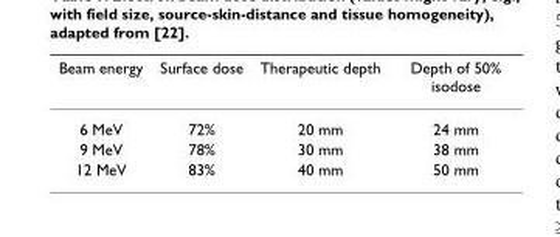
<table><thead><tr><td>Beam energy</td><td>Surface dose</td><td>Therapeutic depth</td><td>Depth of 50% isodose</td></tr></thead><tbody><tr><td>6 MeV</td><td>72%</td><td>20 mm</td><td>24 mm</td></tr><tr><td>9 MeV</td><td>78%</td><td>30 mm</td><td>38 mm</td></tr><tr><td>12 MeV</td><td>83%</td><td>40 mm</td><td>50 mm</td></tr></tbody></table>